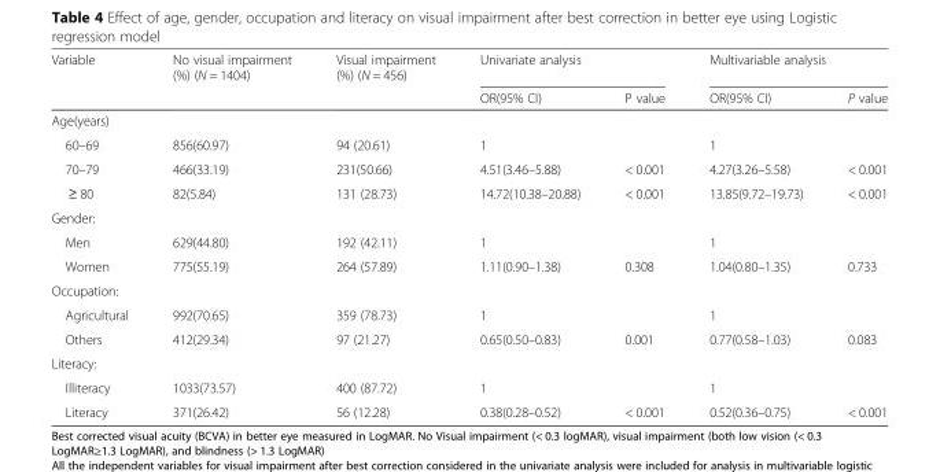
<table><thead><tr><td rowspan="2">Variable</td><td rowspan="2">No visual impairment (%) (N = 1404)</td><td rowspan="2">Visual impairment (%) (N = 456)</td><td colspan="2">Univariate analysis</td><td colspan="2">Multivariable analysis</td></tr><tr><td>OR(95% CI)</td><td>P value</td><td>OR(95% CI)</td><td>P value</td></tr></thead><tbody><tr><td colspan="7">Age(years)</td></tr><tr><td>60–69</td><td>856(60.97)</td><td>94 (20.61)</td><td>1</td><td></td><td>1</td><td></td></tr><tr><td>70–79</td><td>466(33.19)</td><td>231(50.66)</td><td>4.51(3.46–5.88)</td><td>&lt; 0.001</td><td>4.27(3.26–5.58)</td><td>&lt; 0.001</td></tr><tr><td>≥ 80</td><td>82(5.84)</td><td>131 (28.73)</td><td>14.72(10.38–20.88)</td><td>&lt; 0.001</td><td>13.85(9.72–19.73)</td><td>&lt; 0.001</td></tr><tr><td colspan="7">Gender:</td></tr><tr><td>Men</td><td>629(44.80)</td><td>192 (42.11)</td><td>1</td><td></td><td>1</td><td></td></tr><tr><td>Women</td><td>775(55.19)</td><td>264 (57.89)</td><td>1.11(0.90–1.38)</td><td>0.308</td><td>1.04(0.80–1.35)</td><td>0.733</td></tr><tr><td colspan="7">Occupation:</td></tr><tr><td>Agricultural</td><td>992(70.65)</td><td>359 (78.73)</td><td>1</td><td></td><td>1</td><td></td></tr><tr><td>Others</td><td>412(29.34)</td><td>97 (21.27)</td><td>0.65(0.50–0.83)</td><td>0.001</td><td>0.77(0.58–1.03)</td><td>0.083</td></tr><tr><td colspan="7">Literacy:</td></tr><tr><td>Illiteracy</td><td>1033(73.57)</td><td>400 (87.72)</td><td>1</td><td></td><td>1</td><td></td></tr><tr><td>Literacy</td><td>371(26.42)</td><td>56 (12.28)</td><td>0.38(0.28–0.52)</td><td>&lt; 0.001</td><td>0.52(0.36–0.75)</td><td>&lt; 0.001</td></tr></tbody></table>